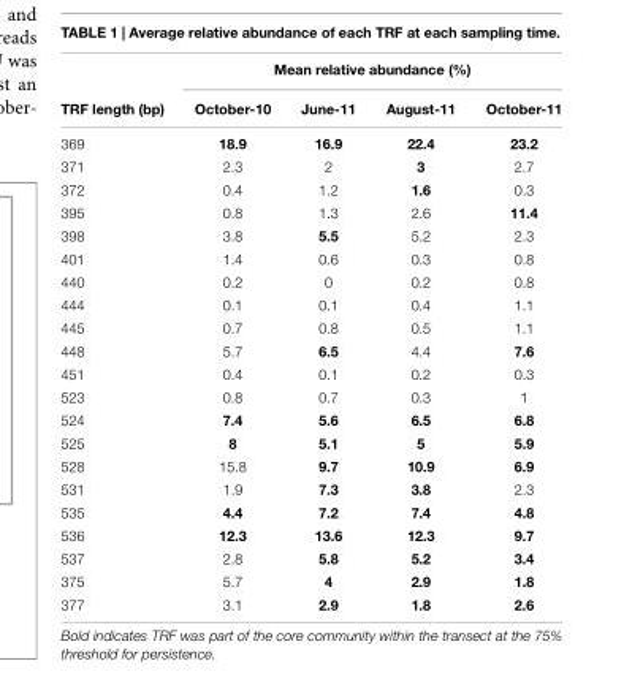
<table><thead><tr><td rowspan="2">TRF length (bp)</td><td colspan="4">Mean relative abundance (%)</td></tr><tr><td>October-10</td><td>June-11</td><td>August-11</td><td>October-11</td></tr></thead><tbody><tr><td>369</td><td>18.9</td><td>16.9</td><td>22.4</td><td>23.2</td></tr><tr><td>371</td><td>2.3</td><td>2</td><td>3</td><td>2.7</td></tr><tr><td>372</td><td>0.4</td><td>1.2</td><td>1.6</td><td>0.3</td></tr><tr><td>395</td><td>0.8</td><td>1.3</td><td>2.6</td><td>11.4</td></tr><tr><td>398</td><td>3.8</td><td>5.5</td><td>5.2</td><td>2.3</td></tr><tr><td>401</td><td>1.4</td><td>0.6</td><td>0.3</td><td>0.8</td></tr><tr><td>440</td><td>0.2</td><td>0</td><td>0.2</td><td>0.8</td></tr><tr><td>444</td><td>0.1</td><td>0.1</td><td>0.4</td><td>1.1</td></tr><tr><td>445</td><td>0.7</td><td>0.8</td><td>0.5</td><td>1.1</td></tr><tr><td>448</td><td>5.7</td><td>6.5</td><td>4.4</td><td>7.6</td></tr><tr><td>451</td><td>0.4</td><td>0.1</td><td>0.2</td><td>0.3</td></tr><tr><td>523</td><td>0.8</td><td>0.7</td><td>0.3</td><td>1</td></tr><tr><td>524</td><td>7.4</td><td>5.6</td><td>6.5</td><td>6.8</td></tr><tr><td>525</td><td>8</td><td>5.1</td><td>5</td><td>5.9</td></tr><tr><td>528</td><td>15.8</td><td>9.7</td><td>10.9</td><td>6.9</td></tr><tr><td>531</td><td>1.9</td><td>7.3</td><td>3.8</td><td>2.3</td></tr><tr><td>535</td><td>4.4</td><td>7.2</td><td>7.4</td><td>4.8</td></tr><tr><td>536</td><td>12.3</td><td>13.6</td><td>12.3</td><td>9.7</td></tr><tr><td>537</td><td>2.8</td><td>5.8</td><td>5.2</td><td>3.4</td></tr><tr><td>375</td><td>5.7</td><td>4</td><td>2.9</td><td>1.8</td></tr><tr><td>377</td><td>3.1</td><td>2.9</td><td>1.8</td><td>2.6</td></tr></tbody></table>